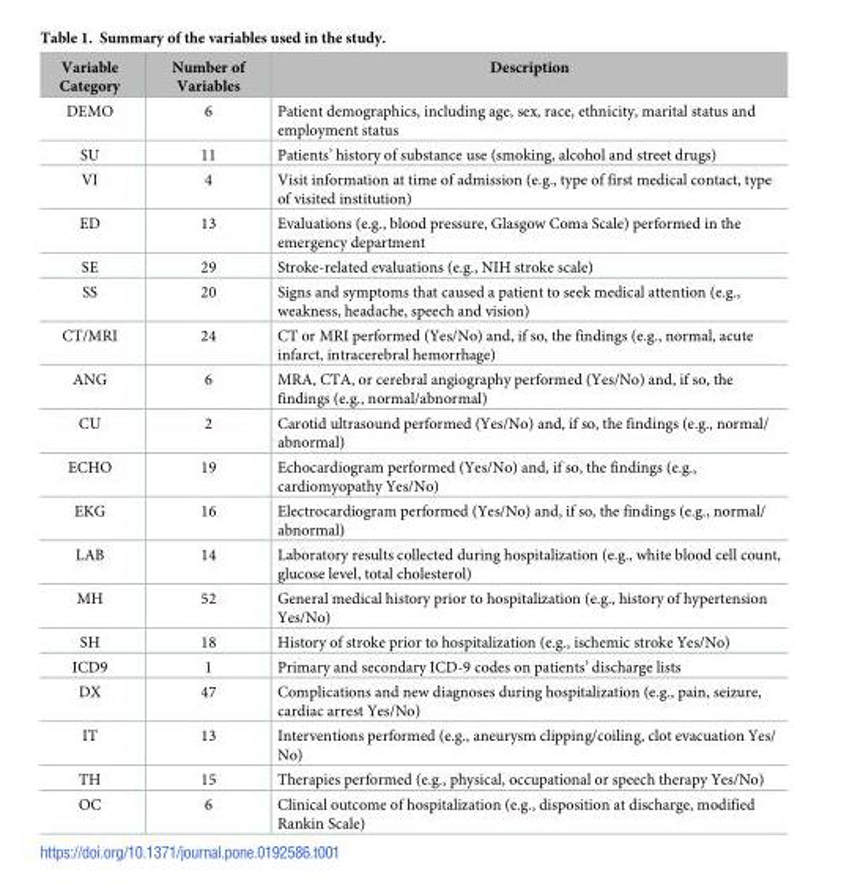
<table><thead><tr><td>Variable Category</td><td>Number of Variables</td><td>Description</td></tr></thead><tbody><tr><td>DEMO</td><td>6</td><td>Patient demographics, including age, sex, race, ethnicity, marital status and employment status</td></tr><tr><td>SU</td><td>11</td><td>Patients’ history of substance use (smoking, alcohol and street drugs)</td></tr><tr><td>VI</td><td>4</td><td>Visit information at time of admission (e.g., type of first medical contact, type of visited institution)</td></tr><tr><td>ED</td><td>13</td><td>Evaluations (e.g., blood pressure, Glasgow Coma Scale) performed in the emergency department</td></tr><tr><td>SE</td><td>29</td><td>Stroke-related evaluations (e.g., NIH stroke scale)</td></tr><tr><td>SS</td><td>20</td><td>Signs and symptoms that caused a patient to seek medical attention (e.g., weakness, headache, speech and vision)</td></tr><tr><td>CT/MRI</td><td>24</td><td>CT or MRI performed (Yes/No) and, if so, the findings (e.g., normal, acute infarct, intracerebral hemorrhage)</td></tr><tr><td>ANG</td><td>6</td><td>MRA, CTA, or cerebral angiography performed (Yes/No) and, if so, the findings (e.g., normal/abnormal)</td></tr><tr><td>CU</td><td>2</td><td>Carotid ultrasound performed (Yes/No) and, if so, the findings (e.g., normal/ abnormal)</td></tr><tr><td>ECHO</td><td>19</td><td>Echocardiogram performed (Yes/No) and, if so, the findings (e.g., cardiomyopathy Yes/No)</td></tr><tr><td>EKG</td><td>16</td><td>Electrocardiogram performed (Yes/No) and, if so, the findings (e.g., normal/ abnormal)</td></tr><tr><td>LAB</td><td>14</td><td>Laboratory results collected during hospitalization (e.g., white blood cell count, glucose level, total cholesterol)</td></tr><tr><td>MH</td><td>52</td><td>General medical history prior to hospitalization (e.g., history of hypertension Yes/No)</td></tr><tr><td>SH</td><td>18</td><td>History of stroke prior to hospitalization (e.g., ischemic stroke Yes/No)</td></tr><tr><td>ICD9</td><td>1</td><td>Primary and secondary ICD-9 codes on patients’ discharge lists</td></tr><tr><td>DX</td><td>47</td><td>Complications and new diagnoses during hospitalization (e.g., pain, seizure, cardiac arrest Yes/No)</td></tr><tr><td>IT</td><td>13</td><td>Interventions performed (e.g., aneurysm clipping/coiling, clot evacuation Yes/ No)</td></tr><tr><td>TH</td><td>15</td><td>Therapies performed (e.g., physical, occupational or speech therapy Yes/No)</td></tr><tr><td>OC</td><td>6</td><td>Clinical outcome of hospitalization (e.g., disposition at discharge, modified Rankin Scale)</td></tr></tbody></table>